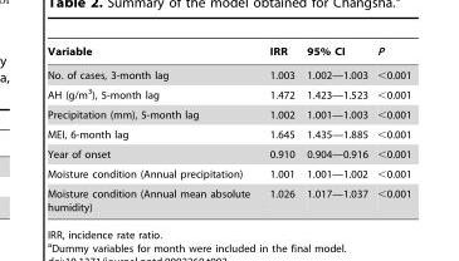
<table><thead><tr><td>Variable</td><td>IRR</td><td>95% CI</td><td>P</td></tr></thead><tbody><tr><td>No. of cases, 3-month lag</td><td>1.003</td><td>1.002—1.003</td><td>&lt;0.001</td></tr><tr><td>AH (g/m<sup>3</sup>), 5-month lag</td><td>1.472</td><td>1.423—1.523</td><td>&lt;0.001</td></tr><tr><td>Precipitation (mm), 5-month lag</td><td>1.002</td><td>1.001—1.003</td><td>&lt;0.001</td></tr><tr><td>MEI, 6-month lag</td><td>1.645</td><td>1.435—1.885</td><td>&lt;0.001</td></tr><tr><td>Year of onset</td><td>0.910</td><td>0.904—0.916</td><td>&lt;0.001</td></tr><tr><td>Moisture condition (Annual precipitation)</td><td>1.001</td><td>1.001—1.002</td><td>&lt;0.001</td></tr><tr><td>Moisture condition (Annual mean absolute humidity)</td><td>1.026</td><td>1.017—1.037</td><td>&lt;0.001</td></tr></tbody></table>